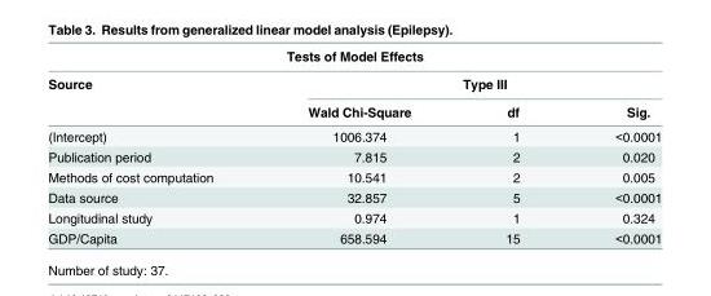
<table><thead><tr><td colspan="4">Tests of Model Effects</td></tr><tr><td rowspan="2">Source</td><td colspan="3">Type III</td></tr><tr><td>Wald Chi-Square</td><td>df</td><td>Sig.</td></tr></thead><tbody><tr><td>(Intercept)</td><td>1006.374</td><td>1</td><td>&lt;0.0001</td></tr><tr><td>Publication period</td><td>7.815</td><td>2</td><td>0.020</td></tr><tr><td>Methods of cost computation</td><td>10.541</td><td>2</td><td>0.005</td></tr><tr><td>Data source</td><td>32.857</td><td>5</td><td>&lt;0.0001</td></tr><tr><td>Longitudinal study</td><td>0.974</td><td>1</td><td>0.324</td></tr><tr><td>GDP/Capita</td><td>658.594</td><td>15</td><td>&lt;0.0001</td></tr></tbody></table>